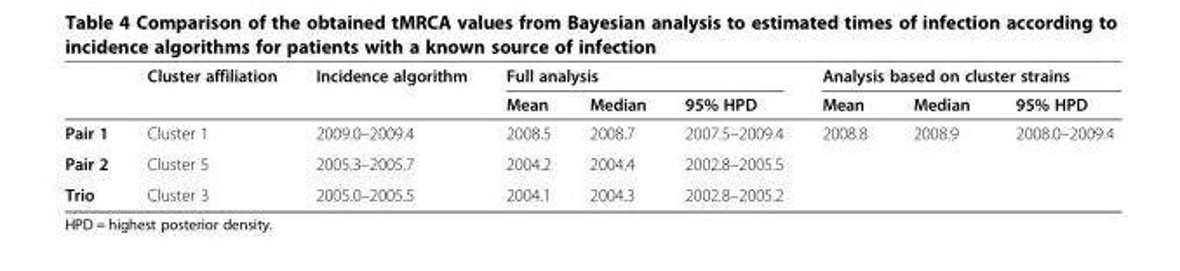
<table><thead><tr><td rowspan="2"></td><td rowspan="2">Cluster affiliation</td><td rowspan="2">Incidence algorithm</td><td colspan="3">Full analysis</td><td colspan="3">Analysis based on cluster strains</td></tr><tr><td>Mean</td><td>Median</td><td>95% HPD</td><td>Mean</td><td>Median</td><td>95% HPD</td></tr></thead><tbody><tr><td>Pair 1</td><td>Cluster 1</td><td>2009.0–2009.4</td><td>2008.5</td><td>2008.7</td><td>2007.5–2009.4</td><td>2008.8</td><td>2008.9</td><td>2008.0–2009.4</td></tr><tr><td>Pair 2</td><td>Cluster 5</td><td>2005.3–2005.7</td><td>2004.2</td><td>2004.4</td><td>2002.8–2005.5</td><td></td><td></td><td></td></tr><tr><td>Trio</td><td>Cluster 3</td><td>2005.0–2005.5</td><td>2004.1</td><td>2004.3</td><td>2002.8–2005.2</td><td></td><td></td><td></td></tr></tbody></table>